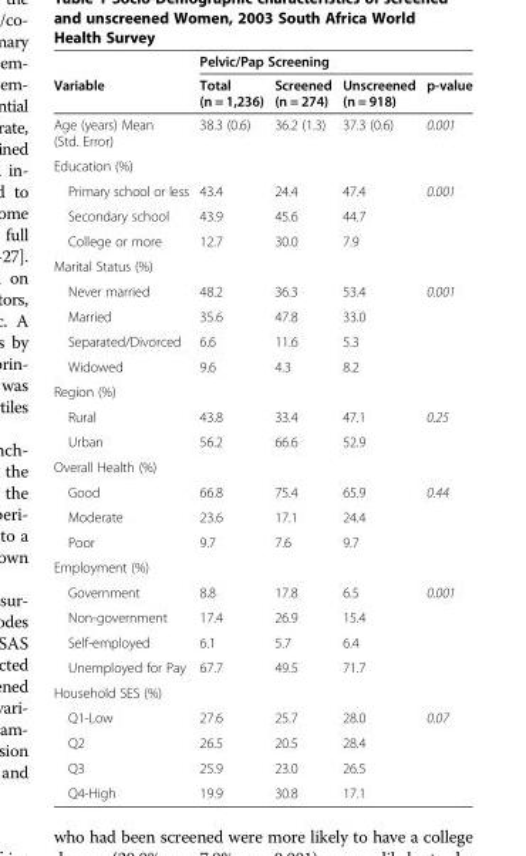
<table><thead><tr><td rowspan="2">Variable</td><td colspan="4">Pelvic/Pap Screening</td></tr><tr><td>Total (n = 1,236)</td><td>Screened (n = 274)</td><td>Unscreened (n = 918)</td><td>p-value</td></tr></thead><tbody><tr><td>Age (years) Mean (Std. Error)</td><td>38.3 (0.6)</td><td>36.2 (1.3)</td><td>37.3 (0.6)</td><td>0.001</td></tr><tr><td colspan="5">Education (%)</td></tr><tr><td>Primary school or less</td><td>43.4</td><td>24.4</td><td>47.4</td><td>0.001</td></tr><tr><td>Secondary school</td><td>43.9</td><td>45.6</td><td>44.7</td><td></td></tr><tr><td>College or more</td><td>12.7</td><td>30.0</td><td>7.9</td><td></td></tr><tr><td colspan="5">Marital Status (%)</td></tr><tr><td>Never married</td><td>48.2</td><td>36.3</td><td>53.4</td><td>0.001</td></tr><tr><td>Married</td><td>35.6</td><td>47.8</td><td>33.0</td><td></td></tr><tr><td>Separated/Divorced</td><td>6.6</td><td>11.6</td><td>5.3</td><td></td></tr><tr><td>Widowed</td><td>9.6</td><td>4.3</td><td>8.2</td><td></td></tr><tr><td colspan="5">Region (%)</td></tr><tr><td>Rural</td><td>43.8</td><td>33.4</td><td>47.1</td><td>0.25</td></tr><tr><td>Urban</td><td>56.2</td><td>66.6</td><td>52.9</td><td></td></tr><tr><td colspan="5">Overall Health (%)</td></tr><tr><td>Good</td><td>66.8</td><td>75.4</td><td>65.9</td><td>0.44</td></tr><tr><td>Moderate</td><td>23.6</td><td>17.1</td><td>24.4</td><td></td></tr><tr><td>Poor</td><td>9.7</td><td>7.6</td><td>9.7</td><td></td></tr><tr><td colspan="5">Employment (%)</td></tr><tr><td>Government</td><td>8.8</td><td>17.8</td><td>6.5</td><td>0.001</td></tr><tr><td>Non-government</td><td>17.4</td><td>26.9</td><td>15.4</td><td></td></tr><tr><td>Self-employed</td><td>6.1</td><td>5.7</td><td>6.4</td><td></td></tr><tr><td>Unemployed for Pay</td><td>67.7</td><td>49.5</td><td>71.7</td><td></td></tr><tr><td colspan="5">Household SES (%)</td></tr><tr><td>Q1-Low</td><td>27.6</td><td>25.7</td><td>28.0</td><td>0.07</td></tr><tr><td>Q2</td><td>26.5</td><td>20.5</td><td>28.4</td><td></td></tr><tr><td>Q3</td><td>25.9</td><td>23.0</td><td>26.5</td><td></td></tr><tr><td>Q4-High</td><td>19.9</td><td>30.8</td><td>17.1</td><td></td></tr></tbody></table>